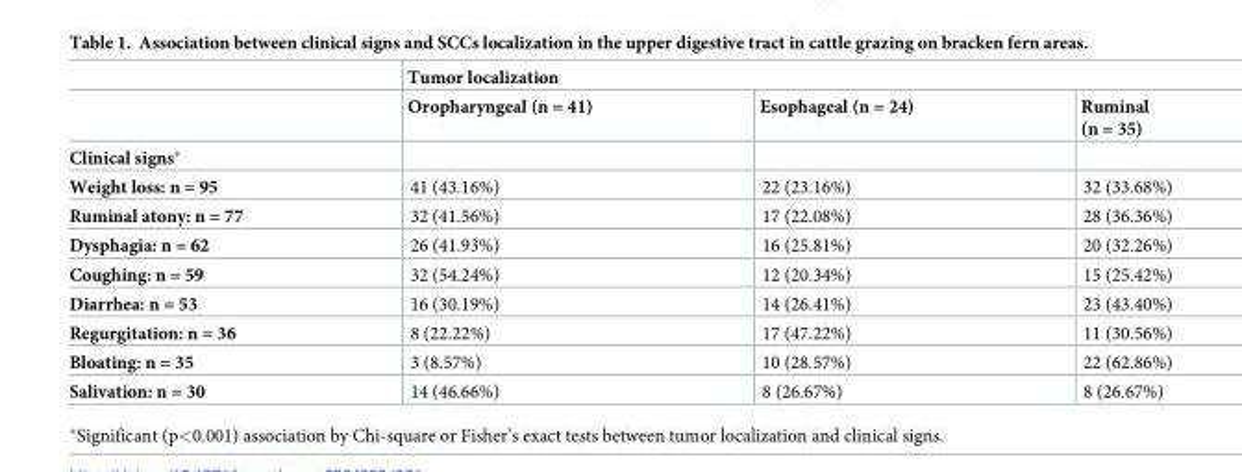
<table><thead><tr><td rowspan="2"></td><td colspan="3">Tumor localization</td></tr><tr><td>Oropharyngeal (n = 41)</td><td>Esophageal (n = 24)</td><td>Ruminal (n = 35)</td></tr></thead><tbody><tr><td colspan="4">Clinical signs*</td></tr><tr><td>Weight loss: n = 95</td><td>41 (43.16%)</td><td>22 (23.16%)</td><td>32 (33.68%)</td></tr><tr><td>Ruminal atony: n = 77</td><td>32 (41.56%)</td><td>17 (22.08%)</td><td>28 (36.36%)</td></tr><tr><td>Dysphagia: n = 62</td><td>26 (41.93%)</td><td>16 (25.81%)</td><td>20 (32.26%)</td></tr><tr><td>Coughing: n = 59</td><td>32 (54.24%)</td><td>12 (20.34%)</td><td>15 (25.42%)</td></tr><tr><td>Diarrhea: n = 53</td><td>16 (30.19%)</td><td>14 (26.41%)</td><td>23 (43.40%)</td></tr><tr><td>Regurgitation: n = 36</td><td>8 (22.22%)</td><td>17 (47.22%)</td><td>11 (30.56%)</td></tr><tr><td>Bloating: n = 35</td><td>3 (8.57%)</td><td>10 (28.57%)</td><td>22 (62.86%)</td></tr><tr><td>Salivation: n = 30</td><td>14 (46.66%)</td><td>8 (26.67%)</td><td>8 (26.67%)</td></tr></tbody></table>